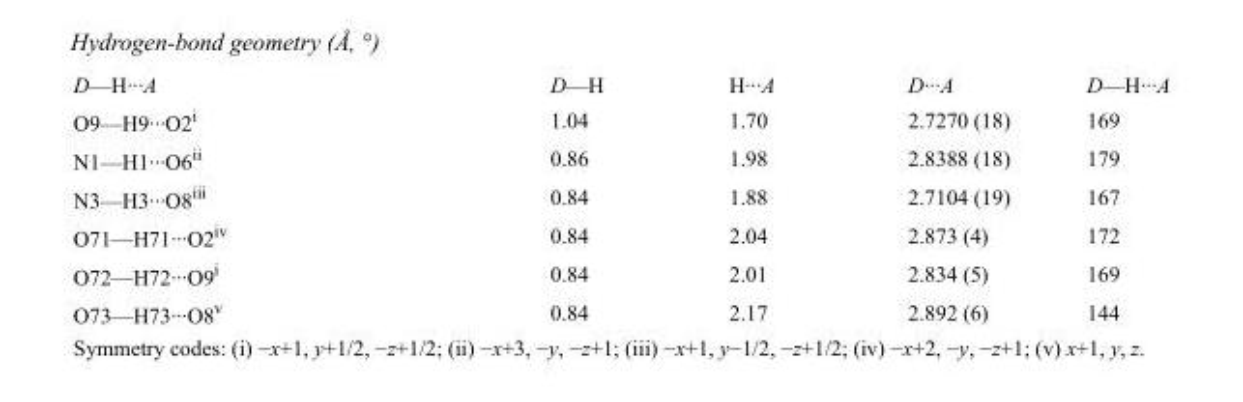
<table><tbody><tr><td>D—H···A</td><td>D—H</td><td>H···A</td><td>D···A</td><td>D—H···A</td></tr><tr><td>O9—H9···O2<sup>i</sup></td><td>1.04</td><td>1.70</td><td>2.7270 (18)</td><td>169</td></tr><tr><td>N1—H1···O6<sup>ii</sup></td><td>0.86</td><td>1.98</td><td>2.8388 (18)</td><td>179</td></tr><tr><td>N3—H3···O8<sup>iii</sup></td><td>0.84</td><td>1.88</td><td>2.7104 (19)</td><td>167</td></tr><tr><td>O71—H71···O2<sup>iv</sup></td><td>0.84</td><td>2.04</td><td>2.873 (4)</td><td>172</td></tr><tr><td>O72—H72···O9<sup>i</sup></td><td>0.84</td><td>2.01</td><td>2.834 (5)</td><td>169</td></tr><tr><td>O73—H73···O8<sup>v</sup></td><td>0.84</td><td>2.17</td><td>2.892 (6)</td><td>144</td></tr></tbody></table>